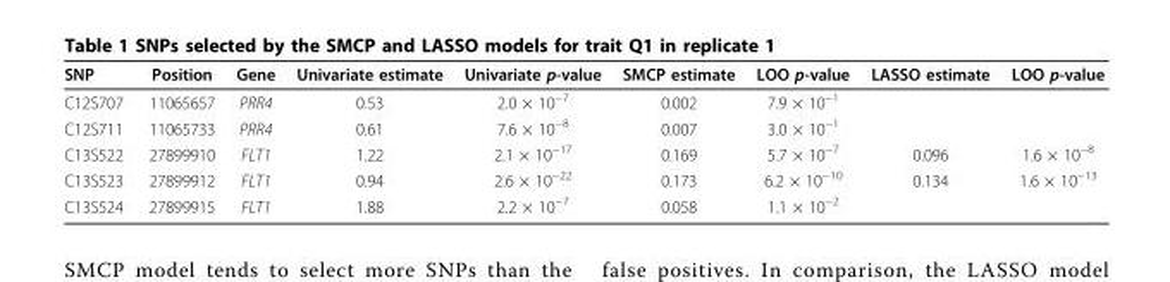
<table><thead><tr><td>SNP</td><td>Position</td><td>Gene</td><td>Univariate estimate</td><td>Univariate p-value</td><td>SMCP estimate</td><td>LOO p-value</td><td>LASSO estimate</td><td>LOO p-value</td></tr></thead><tbody><tr><td>C12S707</td><td>11065657</td><td>PRR4</td><td>0.53</td><td>2.0 × 10<sup>−7</sup></td><td>0.002</td><td>7.9 × 10<sup>−1</sup></td><td></td><td></td></tr><tr><td>C12S711</td><td>11065733</td><td>PRR4</td><td>0.61</td><td>7.6 × 10<sup>−8</sup></td><td>0.007</td><td>3.0 × 10<sup>−1</sup></td><td></td><td></td></tr><tr><td>C13S522</td><td>27899910</td><td>FLT1</td><td>1.22</td><td>2.1 × 10<sup>−17</sup></td><td>0.169</td><td>5.7 × 10<sup>−7</sup></td><td>0.096</td><td>1.6 × 10<sup>−8</sup></td></tr><tr><td>C13S523</td><td>27899912</td><td>FLT1</td><td>0.94</td><td>2.6 × 10<sup>−22</sup></td><td>0.173</td><td>6.2 × 10<sup>−10</sup></td><td>0.134</td><td>1.6 × 10<sup>−13</sup></td></tr><tr><td>C13S524</td><td>27899915</td><td>FLT1</td><td>1.88</td><td>2.2 × 10<sup>−7</sup></td><td>0.058</td><td>1.1 × 10<sup>−2</sup></td><td></td><td></td></tr></tbody></table>